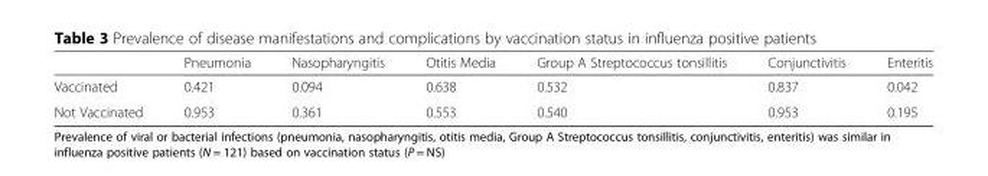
<table><thead><tr><td></td><td>Pneumonia</td><td>Nasopharyngitis</td><td>Otitis Media</td><td>Group A Streptococcus tonsillitis</td><td>Conjunctivitis</td><td>Enteritis</td></tr></thead><tbody><tr><td>Vaccinated</td><td>0.421</td><td>0.094</td><td>0.638</td><td>0.532</td><td>0.837</td><td>0.042</td></tr><tr><td>Not Vaccinated</td><td>0.953</td><td>0.361</td><td>0.553</td><td>0.540</td><td>0.953</td><td>0.195</td></tr></tbody></table>